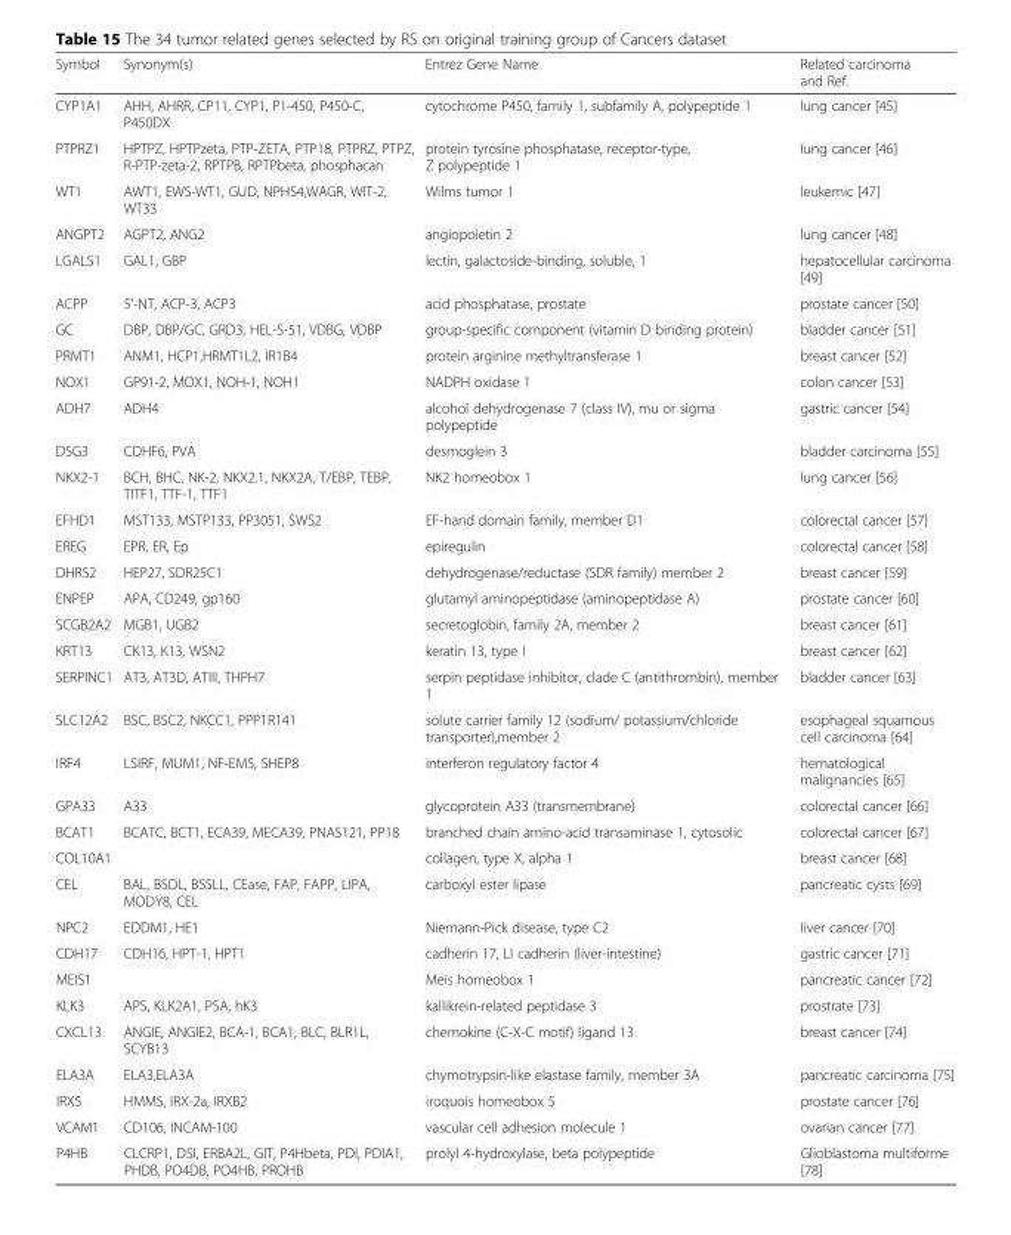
<table><thead><tr><td>Symbol</td><td>Synonym(s)</td><td>Entrez Gene Name</td><td>Related carcinoma and Ref.</td></tr></thead><tbody><tr><td>CYP1A1</td><td>AHH, AHRR, CP11, CYP1, P1-450, P450-C, P450DX</td><td>cytochrome P450, family 1, subfamily A, polypeptide 1</td><td>lung cancer [45]</td></tr><tr><td>PTPRZ1</td><td>HPTPZ, HPTPzeta, PTP-ZETA, PTP18, PTPRZ, PTPZ, R-PTP-zeta-2, RPTPB, RPTPbeta, phosphacan</td><td>protein tyrosine phosphatase, receptor-type, Z polypeptide 1</td><td>lung cancer [46]</td></tr><tr><td>WT1</td><td>AWT1, EWS-WT1, GUD, NPHS4,WAGR, WIT-2, WT33</td><td>Wilms tumor 1</td><td>leukemic [47]</td></tr><tr><td>ANGPT2</td><td>AGPT2, ANG2</td><td>angiopoietin 2</td><td>lung cancer [48]</td></tr><tr><td>LGALS1</td><td>GAL1, GBP</td><td>lectin, galactoside-binding, soluble, 1</td><td>hepatocellular carcinoma [49]</td></tr><tr><td>ACPP</td><td>5&#x27;-NT, ACP-3, ACP3</td><td>acid phosphatase, prostate</td><td>prostate cancer [50]</td></tr><tr><td>GC</td><td>DBP, DBP/GC, GRD3, HEL-S-51, VDBG, VDBP</td><td>group-specific component (vitamin D binding protein)</td><td>bladder cancer [51]</td></tr><tr><td>PRMT1</td><td>ANM1, HCP1,HRMT1L2, IR1B4</td><td>protein arginine methyltransferase 1</td><td>breast cancer [52]</td></tr><tr><td>NOX1</td><td>GP91-2, MOX1, NOH-1, NOH1</td><td>NADPH oxidase 1</td><td>colon cancer [53]</td></tr><tr><td>ADH7</td><td>ADH4</td><td>alcohol dehydrogenase 7 (class IV), mu or sigma polypeptide</td><td>gastric cancer [54]</td></tr><tr><td>DSG3</td><td>CDHF6, PVA</td><td>desmoglein 3</td><td>bladder carcinoma [55]</td></tr><tr><td>NKX2-1</td><td>BCH, BHC, NK-2, NKX2.1, NKX2A, T/EBP, TEBP, TITF1, TTF-1, TTF1</td><td>NK2 homeobox 1</td><td>lung cancer [56]</td></tr><tr><td>EFHD1</td><td>MST133, MSTP133, PP3051, SWS2</td><td>EF-hand domain family, member D1</td><td>colorectal cancer [57]</td></tr><tr><td>EREG</td><td>EPR, ER, Ep</td><td>epiregulin</td><td>colorectal cancer [58]</td></tr><tr><td>DHRS2</td><td>HEP27, SDR25C1</td><td>dehydrogenase/reductase (SDR family) member 2</td><td>breast cancer [59]</td></tr><tr><td>ENPEP</td><td>APA, CD249, gp160</td><td>glutamyl aminopeptidase (aminopeptidase A)</td><td>prostate cancer [60]</td></tr><tr><td>SCGB2A2</td><td>MGB1, UGB2</td><td>secretoglobin, family 2A, member 2</td><td>breast cancer [61]</td></tr><tr><td>KRT13</td><td>CK13, K13, WSN2</td><td>keratin 13, type I</td><td>breast cancer [62]</td></tr><tr><td>SERPINC1</td><td>AT3, AT3D, ATIII, THPH7</td><td>serpin peptidase inhibitor, clade C (antithrombin), member 1</td><td>bladder cancer [63]</td></tr><tr><td>SLC12A2</td><td>BSC, BSC2, NKCC1, PPP1R141</td><td>solute carrier family 12 (sodium/ potassium/chloride transporter),member 2</td><td>esophageal squamous cell carcinoma [64]</td></tr><tr><td>IRF4</td><td>LSIRF, MUM1, NF-EM5, SHEP8</td><td>interferon regulatory factor 4</td><td>hematological malignancies [65]</td></tr><tr><td>GPA33</td><td>A33</td><td>glycoprotein A33 (transmembrane)</td><td>colorectal cancer [66]</td></tr><tr><td>BCAT1</td><td>BCATC, BCT1, ECA39, MECA39, PNAS121, PP18</td><td>branched chain amino-acid transaminase 1, cytosolic</td><td>colorectal cancer [67]</td></tr><tr><td>COL10A1</td><td></td><td>collagen, type X, alpha 1</td><td>breast cancer [68]</td></tr><tr><td>CEL</td><td>BAL, BSDL, BSSLL, CEase, FAP, FAPP, LIPA, MODY8, CEL</td><td>carboxyl ester lipase</td><td>pancreatic cysts [69]</td></tr><tr><td>NPC2</td><td>EDDM1, HE1</td><td>Niemann-Pick disease, type C2</td><td>liver cancer [70]</td></tr><tr><td>CDH17</td><td>CDH16, HPT-1, HPT1</td><td>cadherin 17, LI cadherin (liver-intestine)</td><td>gastric cancer [71]</td></tr><tr><td>MEIS1</td><td></td><td>Meis homeobox 1</td><td>pancreatic cancer [72]</td></tr><tr><td>KLK3</td><td>APS, KLK2A1, PSA, hK3</td><td>kallikrein-related peptidase 3</td><td>prostrate [73]</td></tr><tr><td>CXCL13</td><td>ANGIE, ANGIE2, BCA-1, BCA1, BLC, BLR1L, SCYB13</td><td>chemokine (C-X-C motif) ligand 13</td><td>breast cancer [74]</td></tr><tr><td>ELA3A</td><td>ELA3,ELA3A</td><td>chymotrypsin-like elastase family, member 3A</td><td>pancreatic carcinoma [75]</td></tr><tr><td>IRX5</td><td>HMMS, IRX-2a, IRXB2</td><td>iroquois homeobox 5</td><td>prostate cancer [76]</td></tr><tr><td>VCAM1</td><td>CD106, INCAM-100</td><td>vascular cell adhesion molecule 1</td><td>ovarian cancer [77]</td></tr><tr><td>P4HB</td><td>CLCRP1, DSI, ERBA2L, GIT, P4Hbeta, PDI, PDIA1, PHDB, PO4DB, PO4HB, PROHB</td><td>prolyl 4-hydroxylase, beta polypeptide</td><td>Glioblastoma multiforme [78]</td></tr></tbody></table>